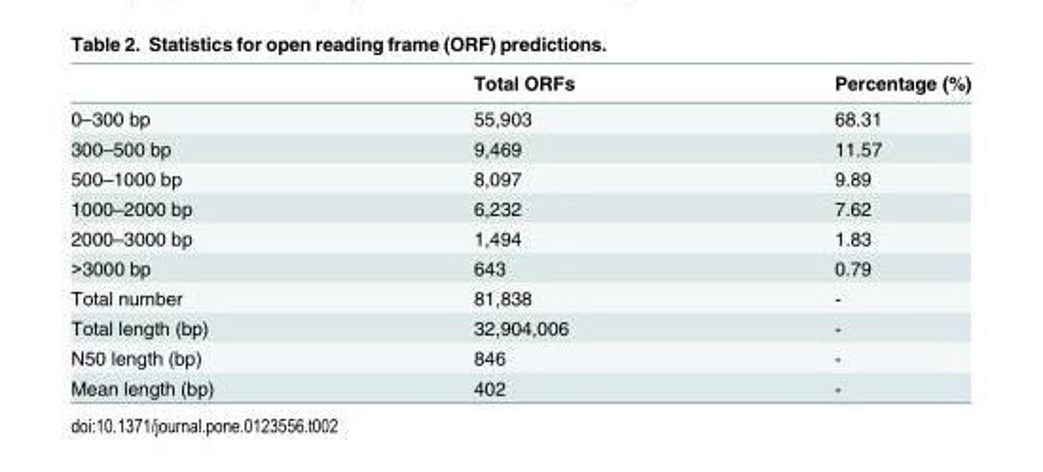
<table><thead><tr><td></td><td>Total ORFs</td><td>Percentage (%)</td></tr></thead><tbody><tr><td>0–300 bp</td><td>55,903</td><td>68.31</td></tr><tr><td>300–500 bp</td><td>9,469</td><td>11.57</td></tr><tr><td>500–1000 bp</td><td>8,097</td><td>9.89</td></tr><tr><td>1000–2000 bp</td><td>6,232</td><td>7.62</td></tr><tr><td>2000–3000 bp</td><td>1,494</td><td>1.83</td></tr><tr><td>&gt;3000 bp</td><td>643</td><td>0.79</td></tr><tr><td>Total number</td><td>81,838</td><td>-</td></tr><tr><td>Total length (bp)</td><td>32,904,006</td><td>-</td></tr><tr><td>N50 length (bp)</td><td>846</td><td>-</td></tr><tr><td>Mean length (bp)</td><td>402</td><td>-</td></tr></tbody></table>